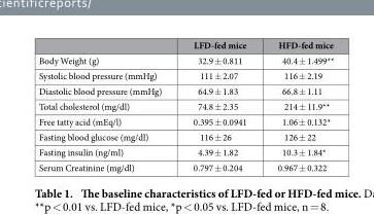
<table><thead><tr><td></td><td>LFD-fed mice</td><td>HFD-fed mice</td></tr></thead><tbody><tr><td>Body Weight (g)</td><td>32.9 ± 0.811</td><td>40.4 ± 1.499**</td></tr><tr><td>Systolic blood pressure (mmHg)</td><td>111 ± 2.07</td><td>116 ± 2.19</td></tr><tr><td>Diastolic blood pressure (mmHg)</td><td>64.9 ± 1.83</td><td>66.8 ± 1.11</td></tr><tr><td>Total cholesterol (mg/dl)</td><td>74.8 ± 2.35</td><td>214 ± 11.9**</td></tr><tr><td>Free tatty acid (mEq/l)</td><td>0.395 ± 0.0941</td><td>1.06 ± 0.132*</td></tr><tr><td>Fasting blood glucose (mg/dl)</td><td>116 ± 26</td><td>126 ± 22</td></tr><tr><td>Fasting insulin (ng/ml)</td><td>4.39 ± 1.82</td><td>10.3 ± 1.84*</td></tr><tr><td>Serum Creatinine (mg/dl)</td><td>0.797 ± 0.204</td><td>0.967 ± 0.322</td></tr></tbody></table>